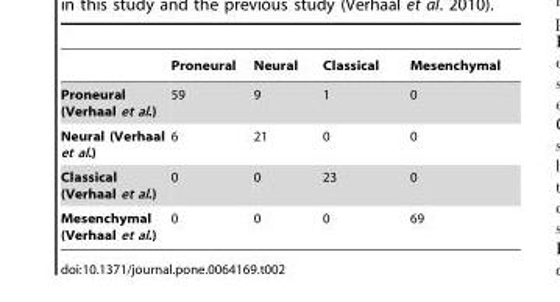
<table><thead><tr><td></td><td>Proneural</td><td>Neural</td><td>Classical</td><td>Mesenchymal</td></tr></thead><tbody><tr><td>Proneural (Verhaal et al.)</td><td>59</td><td>9</td><td>1</td><td>0</td></tr><tr><td>Neural (Verhaal et al.)</td><td>6</td><td>21</td><td>0</td><td>0</td></tr><tr><td>Classical (Verhaal et al.)</td><td>0</td><td>0</td><td>23</td><td>0</td></tr><tr><td>Mesenchymal (Verhaal et al.)</td><td>0</td><td>0</td><td>0</td><td>69</td></tr></tbody></table>